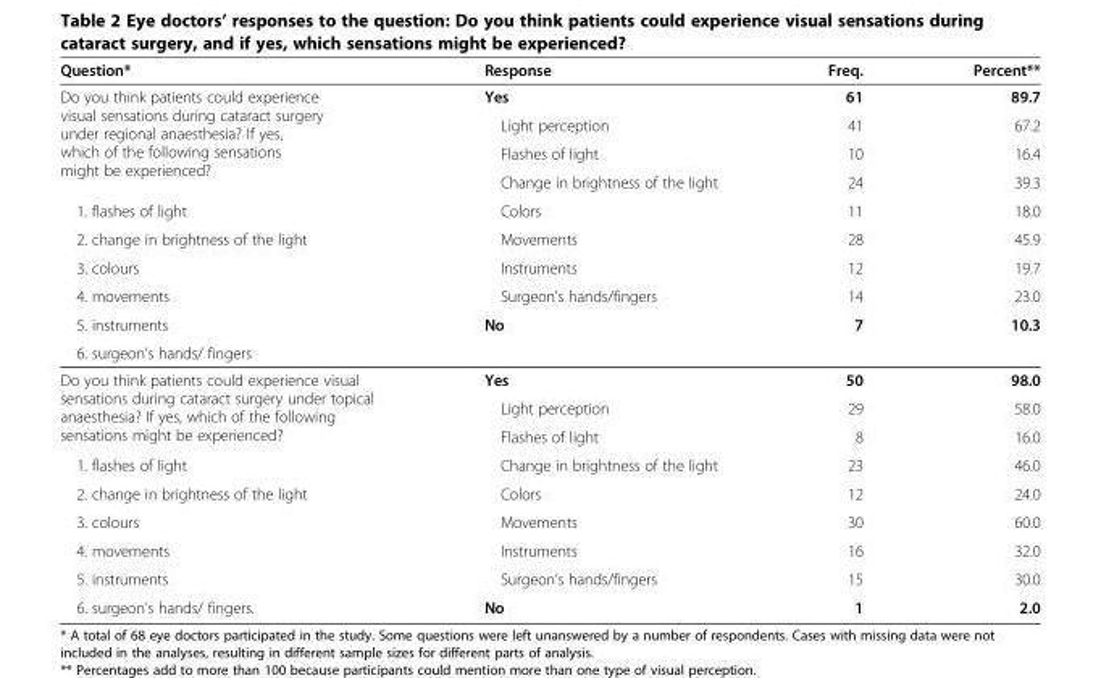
<table><thead><tr><td>Question*</td><td>Response</td><td>Freq.</td><td>Percent**</td></tr></thead><tbody><tr><td rowspan="4">Do you think patients could experience visual sensations during cataract surgery under regional anaesthesia? If yes, which of the following sensations might be experienced?</td><td>Yes</td><td>61</td><td>89.7</td></tr><tr><td>Light perception</td><td>41</td><td>67.2</td></tr><tr><td>Flashes of light</td><td>10</td><td>16.4</td></tr><tr><td>Change in brightness of the light</td><td>24</td><td>39.3</td></tr><tr><td>1. flashes of light</td><td>Colors</td><td>11</td><td>18.0</td></tr><tr><td>2. change in brightness of the light</td><td>Movements</td><td>28</td><td>45.9</td></tr><tr><td>3. colours</td><td>Instruments</td><td>12</td><td>19.7</td></tr><tr><td>4. movements</td><td>Surgeon’s hands/fingers</td><td>14</td><td>23.0</td></tr><tr><td>5. instruments</td><td rowspan="2">No</td><td rowspan="2">7</td><td rowspan="2">10.3</td></tr><tr><td>6. surgeon’s hands/ fingers</td></tr><tr><td rowspan="3">Do you think patients could experience visual sensations during cataract surgery under topical anaesthesia? If yes, which of the following sensations might be experienced?</td><td>Yes</td><td>50</td><td>98.0</td></tr><tr><td>Light perception</td><td>29</td><td>58.0</td></tr><tr><td>Flashes of light</td><td>8</td><td>16.0</td></tr><tr><td>1. flashes of light</td><td>Change in brightness of the light</td><td>23</td><td>46.0</td></tr><tr><td>2. change in brightness of the light</td><td>Colors</td><td>12</td><td>24.0</td></tr><tr><td>3. colours</td><td>Movements</td><td>30</td><td>60.0</td></tr><tr><td>4. movements</td><td>Instruments</td><td>16</td><td>32.0</td></tr><tr><td>5. instruments</td><td>Surgeon’s hands/fingers</td><td>15</td><td>30.0</td></tr><tr><td>6. surgeon’s hands/ fingers.</td><td>No</td><td>1</td><td>2.0</td></tr></tbody></table>